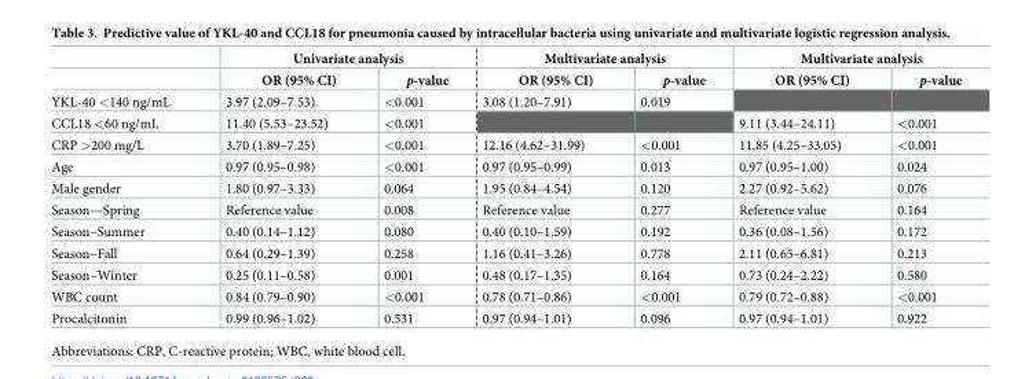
<table><thead><tr><td rowspan="2"></td><td colspan="2">Univariate analysis</td><td colspan="2">Multivariate analysis</td><td colspan="2">Multivariate analysis</td></tr><tr><td>OR (95% CI)</td><td>p-value</td><td>OR (95% CI)</td><td>p-value</td><td>OR (95% CI)</td><td>p-value</td></tr></thead><tbody><tr><td>YKL-40 &lt;140 ng/mL</td><td>3.97 (2.09–7.53)</td><td>&lt;0.001</td><td>3.08 (1.20–7.91)</td><td>0.019</td><td></td><td></td></tr><tr><td>CCL18 &lt;60 ng/mL</td><td>11.40 (5.53–23.52)</td><td>&lt;0.001</td><td></td><td></td><td>9.11 (3.44–24.11)</td><td>&lt;0.001</td></tr><tr><td>CRP &gt;200 mg/L</td><td>3.70 (1.89–7.25)</td><td>&lt;0.001</td><td>12.16 (4.62–31.99)</td><td>&lt;0.001</td><td>11.85 (4.25–33.05)</td><td>&lt;0.001</td></tr><tr><td>Age</td><td>0.97 (0.95–0.98)</td><td>&lt;0.001</td><td>0.97 (0.95–0.99)</td><td>0.013</td><td>0.97 (0.95–1.00)</td><td>0.024</td></tr><tr><td>Male gender</td><td>1.80 (0.97–3.33)</td><td>0.064</td><td>1.95 (0.84–4.54)</td><td>0.120</td><td>2.27 (0.92–5.62)</td><td>0.076</td></tr><tr><td>Season—Spring</td><td>Reference value</td><td>0.008</td><td>Reference value</td><td>0.277</td><td>Reference value</td><td>0.164</td></tr><tr><td>Season–Summer</td><td>0.40 (0.14–1.12)</td><td>0.080</td><td>0.40 (0.10–1.59)</td><td>0.192</td><td>0.36 (0.08–1.56)</td><td>0.172</td></tr><tr><td>Season–Fall</td><td>0.64 (0.29–1.39)</td><td>0.258</td><td>1.16 (0.41–3.26)</td><td>0.778</td><td>2.11 (0.65–6.81)</td><td>0.213</td></tr><tr><td>Season–Winter</td><td>0.25 (0.11–0.58)</td><td>0.001</td><td>0.48 (0.17–1.35)</td><td>0.164</td><td>0.73 (0.24–2.22)</td><td>0.580</td></tr><tr><td>WBC count</td><td>0.84 (0.79–0.90)</td><td>&lt;0.001</td><td>0.78 (0.71–0.86)</td><td>&lt;0.001</td><td>0.79 (0.72–0.88)</td><td>&lt;0.001</td></tr><tr><td>Procalcitonin</td><td>0.99 (0.96–1.02)</td><td>0.531</td><td>0.97 (0.94–1.01)</td><td>0.096</td><td>0.97 (0.94–1.01)</td><td>0.922</td></tr></tbody></table>